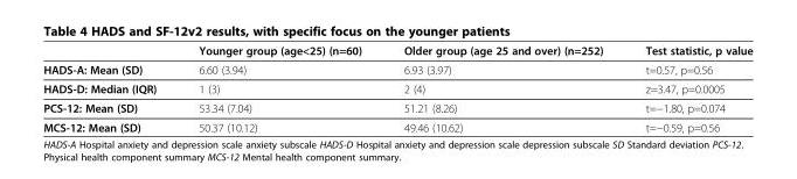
<table><thead><tr><td></td><td>Younger group (age&lt;25) (n=60)</td><td>Older group (age 25 and over) (n=252)</td><td>Test statistic, p value</td></tr></thead><tbody><tr><td>HADS-A: Mean (SD)</td><td>6.60 (3.94)</td><td>6.93 (3.97)</td><td>t=0.57, p=0.56</td></tr><tr><td>HADS-D: Median (IQR)</td><td>1 (3)</td><td>2 (4)</td><td>z=3.47, p=0.0005</td></tr><tr><td>PCS-12: Mean (SD)</td><td>53.34 (7.04)</td><td>51.21 (8.26)</td><td>t=−1.80, p=0.074</td></tr><tr><td>MCS-12: Mean (SD)</td><td>50.37 (10.12)</td><td>49.46 (10.62)</td><td>t=−0.59, p=0.56</td></tr></tbody></table>